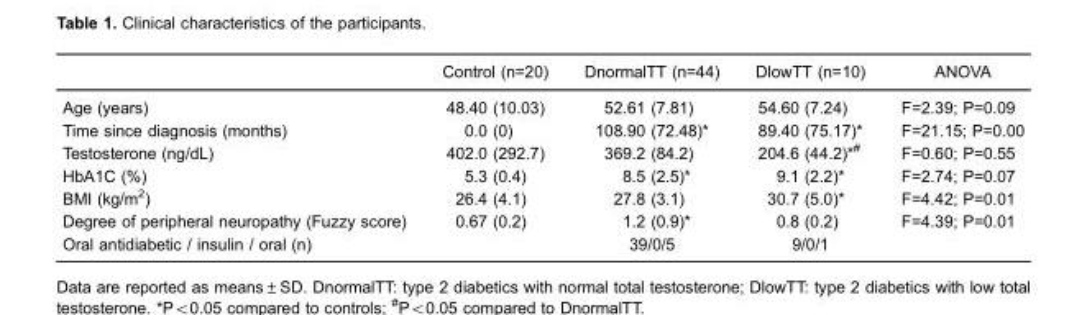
<table><thead><tr><td></td><td>Control (n=20)</td><td>DnormalTT (n=44)</td><td>DlowTT (n=10)</td><td>ANOVA</td></tr></thead><tbody><tr><td>Age (years)</td><td>48.40 (10.03)</td><td>52.61 (7.81)</td><td>54.60 (7.24)</td><td>F=2.39; P=0.09</td></tr><tr><td>Time since diagnosis (months)</td><td>0.0 (0)</td><td>108.90 (72.48)*</td><td>89.40 (75.17)*</td><td>F=21.15; P=0.00</td></tr><tr><td>Testosterone (ng/dL)</td><td>402.0 (292.7)</td><td>369.2 (84.2)</td><td>204.6 (44.2)*<sup>#</sup></td><td>F=0.60; P=0.55</td></tr><tr><td>HbA1C (%)</td><td>5.3 (0.4)</td><td>8.5 (2.5)*</td><td>9.1 (2.2)*</td><td>F=2.74; P=0.07</td></tr><tr><td>BMI (kg/m<sup>2</sup>)</td><td>26.4 (4.1)</td><td>27.8 (3.1)</td><td>30.7 (5.0)*</td><td>F=4.42; P=0.01</td></tr><tr><td>Degree of peripheral neuropathy (Fuzzy score)</td><td>0.67 (0.2)</td><td>1.2 (0.9)*</td><td>0.8 (0.2)</td><td>F=4.39; P=0.01</td></tr><tr><td>Oral antidiabetic / insulin / oral (n)</td><td></td><td>39/0/5</td><td>9/0/1</td><td></td></tr></tbody></table>